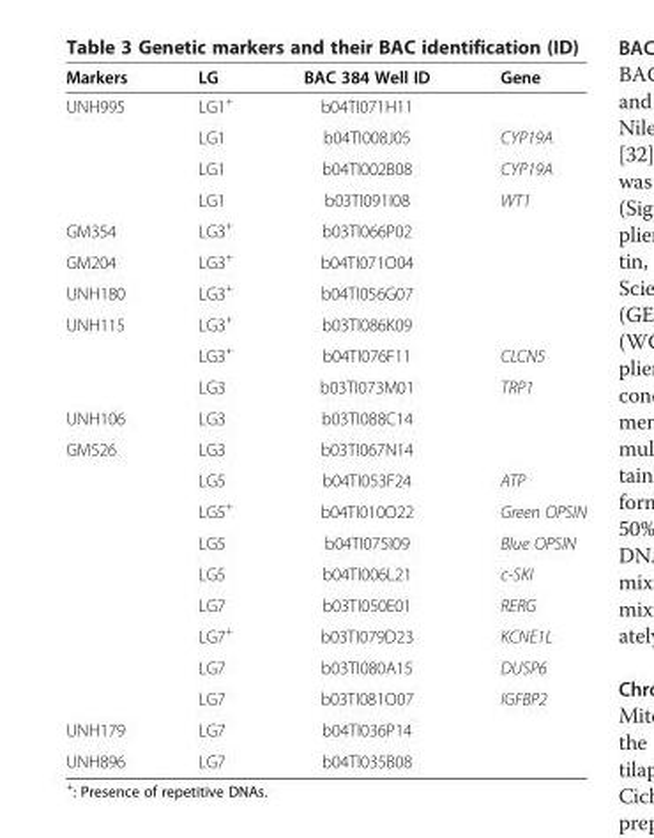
<table><thead><tr><td>Markers</td><td>LG</td><td>BAC 384 Well ID</td><td>Gene</td></tr></thead><tbody><tr><td rowspan="4">UNH995</td><td>LG1<sup>+</sup></td><td>b04TI071H11</td><td></td></tr><tr><td>LG1</td><td>b04TI008J05</td><td>CYP19A</td></tr><tr><td>LG1</td><td>b04TI002B08</td><td>CYP19A</td></tr><tr><td>LG1</td><td>b03TI091I08</td><td>WT1</td></tr><tr><td>GM354</td><td>LG3<sup>+</sup></td><td>b03TI066P02</td><td></td></tr><tr><td>GM204</td><td>LG3<sup>+</sup></td><td>b04TI071O04</td><td></td></tr><tr><td>UNH180</td><td>LG3<sup>+</sup></td><td>b04TI056G07</td><td></td></tr><tr><td rowspan="3">UNH115</td><td>LG3<sup>+</sup></td><td>b03TI086K09</td><td></td></tr><tr><td>LG3<sup>+</sup></td><td>b04TI076F11</td><td>CLCN5</td></tr><tr><td>LG3</td><td>b03TI073M01</td><td>TRP1</td></tr><tr><td>UNH106</td><td>LG3</td><td>b03TI088C14</td><td></td></tr><tr><td rowspan="9">GM526</td><td>LG3</td><td>b03TI067N14</td><td></td></tr><tr><td>LG5</td><td>b04TI053F24</td><td>ATP</td></tr><tr><td>LG5<sup>+</sup></td><td>b04TI010O22</td><td>Green OPSIN</td></tr><tr><td>LG5</td><td>b04TI075I09</td><td>Blue OPSIN</td></tr><tr><td>LG5</td><td>b04TI006L21</td><td>c-SKI</td></tr><tr><td>LG7</td><td>b03TI050E01</td><td>RERG</td></tr><tr><td>LG7<sup>+</sup></td><td>b03TI079D23</td><td>KCNE1L</td></tr><tr><td>LG7</td><td>b03TI080A15</td><td>DUSP6</td></tr><tr><td>LG7</td><td>b03TI081O07</td><td>IGFBP2</td></tr><tr><td>UNH179</td><td>LG7</td><td>b04TI036P14</td><td></td></tr><tr><td>UNH896</td><td>LG7</td><td>b04TI035B08</td><td></td></tr></tbody></table>